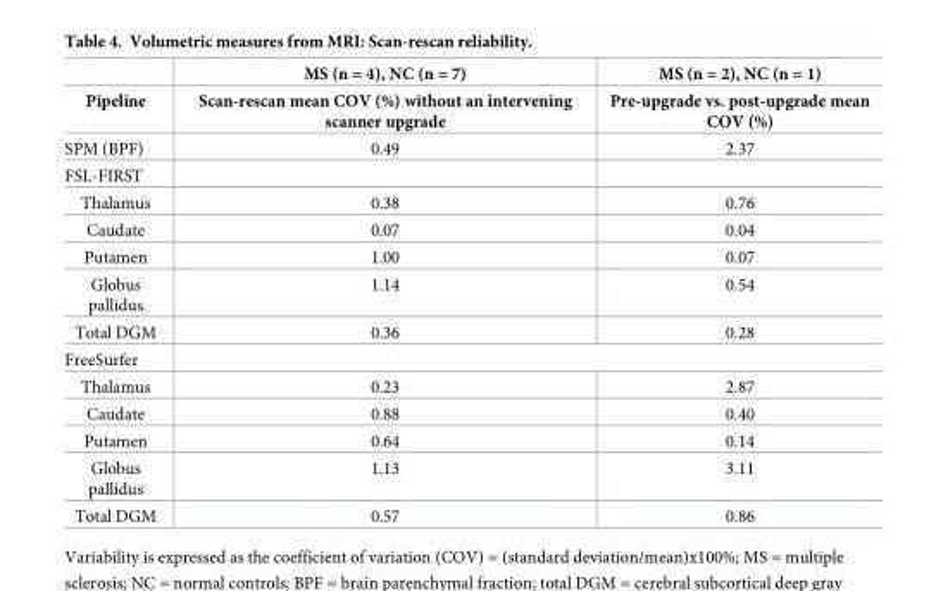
<table><thead><tr><td rowspan="2">Pipeline</td><td rowspan="2">MS (n = 4), NC (n = 7) Scan-rescan mean COV (%) without an intervening scanner upgrade</td><td rowspan="2">MS (n = 2), NC (n = 1) Pre-upgrade vs. post-upgrade mean COV (%)</td></tr><tr></tr></thead><tbody><tr><td>SPM (BPF)</td><td>0.49</td><td>2.37</td></tr><tr><td colspan="3">FSL-FIRST</td></tr><tr><td>Thalamus</td><td>0.38</td><td>0.76</td></tr><tr><td>Caudate</td><td>0.07</td><td>0.04</td></tr><tr><td>Putamen</td><td>1.00</td><td>0.07</td></tr><tr><td>Globus pallidus</td><td>1.14</td><td>0.54</td></tr><tr><td>Total DGM</td><td>0.36</td><td>0.28</td></tr><tr><td colspan="3">FreeSurfer</td></tr><tr><td>Thalamus</td><td>0.23</td><td>2.87</td></tr><tr><td>Caudate</td><td>0.88</td><td>0.40</td></tr><tr><td>Putamen</td><td>0.64</td><td>0.14</td></tr><tr><td>Globus pallidus</td><td>1.13</td><td>3.11</td></tr><tr><td>Total DGM</td><td>0.57</td><td>0.86</td></tr></tbody></table>